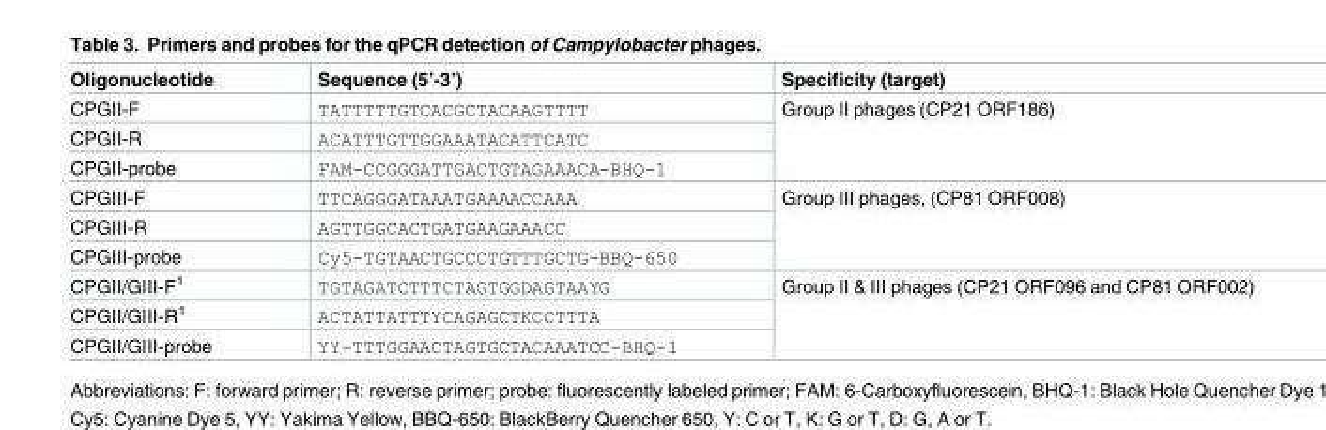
<table><tbody><tr><td>Oligonucleotide</td><td>Sequence (5’-3’)</td><td>Specificity (target)</td></tr><tr><td>CPGII-F</td><td>TATTTTTGTCACGCTACAAGTTTT</td><td rowspan="3">Group II phages (CP21 ORF186)</td></tr><tr><td>CPGII-R</td><td>ACATTTGTTGGAAATACATTCATC</td></tr><tr><td>CPGII-probe</td><td>FAM-CCGGGATTGACTGTAGAAACA-BHQ-1</td></tr><tr><td>CPGIII-F</td><td>TTCAGGGATAAATGAAAACCAAA</td><td rowspan="3">Group III phages, (CP81 ORF008)</td></tr><tr><td>CPGIII-R</td><td>AGTTGGCACTGATGAAGAAACC</td></tr><tr><td>CPGIII-probe</td><td>Cy5-TGTAACTGCCCTGTTTGCTG-BBQ-650</td></tr><tr><td>CPGII/GIII-F<sup>1</sup></td><td>TGTAGATCTTTCTAGTGGDAGTAAYG</td><td rowspan="3">Group II &amp; III phages (CP21 ORF096 and CP81 ORF002)</td></tr><tr><td>CPGII/GIII-R<sup>1</sup></td><td>ACTATTATTTYCAGAGCTKCCTTTA</td></tr><tr><td>CPGII/GIII-probe</td><td>YY-TTTGGAACTAGTGCTACAAATCC-BHQ-1</td></tr></tbody></table>